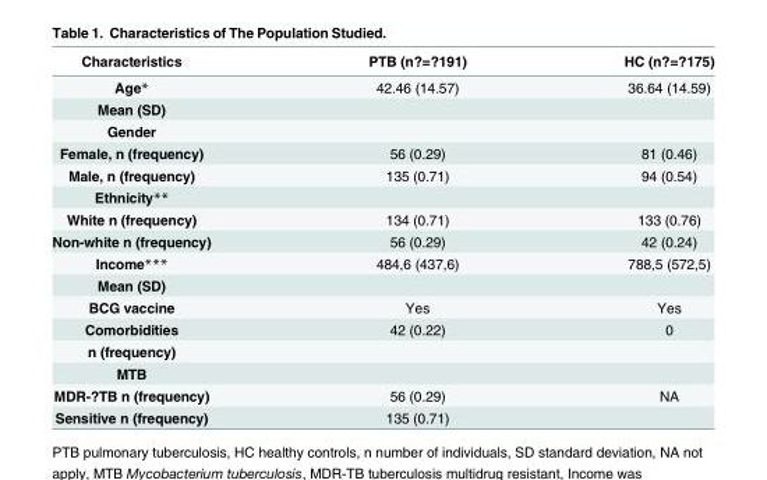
<table><thead><tr><td>Characteristics</td><td>PTB (n?=?191)</td><td>HC (n?=?175)</td></tr></thead><tbody><tr><td>Age*</td><td>42.46 (14.57)</td><td>36.64 (14.59)</td></tr><tr><td colspan="3">Mean (SD)</td></tr><tr><td colspan="3">Gender</td></tr><tr><td>Female, n (frequency)</td><td>56 (0.29)</td><td>81 (0.46)</td></tr><tr><td>Male, n (frequency)</td><td>135 (0.71)</td><td>94 (0.54)</td></tr><tr><td colspan="3">Ethnicity**</td></tr><tr><td>White n (frequency)</td><td>134 (0.71)</td><td>133 (0.76)</td></tr><tr><td>Non-white n (frequency)</td><td>56 (0.29)</td><td>42 (0.24)</td></tr><tr><td>Income***</td><td>484,6 (437,6)</td><td>788,5 (572,5)</td></tr><tr><td colspan="3">Mean (SD)</td></tr><tr><td>BCG vaccine</td><td>Yes</td><td>Yes</td></tr><tr><td>Comorbidities</td><td>42 (0.22)</td><td>0</td></tr><tr><td colspan="3">n (frequency)</td></tr><tr><td colspan="3">MTB</td></tr><tr><td>MDR-?TB n (frequency)</td><td>56 (0.29)</td><td>NA</td></tr><tr><td>Sensitive n (frequency)</td><td>135 (0.71)</td><td></td></tr></tbody></table>